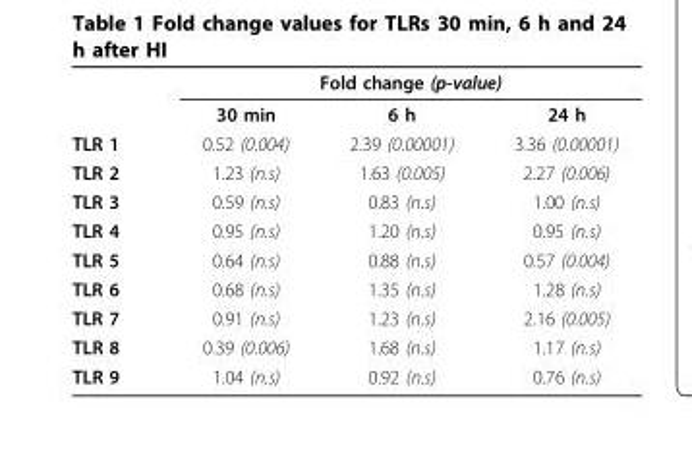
<table><thead><tr><td rowspan="2"></td><td colspan="3">Fold change (p-value)</td></tr><tr><td>30 min</td><td>6 h</td><td>24 h</td></tr></thead><tbody><tr><td>TLR 1</td><td>0.52 (0.004)</td><td>2.39 (0.00001)</td><td>3.36 (0.00001)</td></tr><tr><td>TLR 2</td><td>1.23 (n.s)</td><td>1.63 (0.005)</td><td>2.27 (0.006)</td></tr><tr><td>TLR 3</td><td>0.59 (n.s)</td><td>0.83 (n.s)</td><td>1.00 (n.s)</td></tr><tr><td>TLR 4</td><td>0.95 (n.s)</td><td>1.20 (n.s)</td><td>0.95 (n.s)</td></tr><tr><td>TLR 5</td><td>0.64 (n.s)</td><td>0.88 (n.s)</td><td>0.57 (0.004)</td></tr><tr><td>TLR 6</td><td>0.68 (n.s)</td><td>1.35 (n.s)</td><td>1.28 (n.s)</td></tr><tr><td>TLR 7</td><td>0.91 (n.s)</td><td>1.23 (n.s)</td><td>2.16 (0.005)</td></tr><tr><td>TLR 8</td><td>0.39 (0.006)</td><td>1.68 (n.s)</td><td>1.17 (n.s)</td></tr><tr><td>TLR 9</td><td>1.04 (n.s)</td><td>0.92 (n.s)</td><td>0.76 (n.s)</td></tr></tbody></table>